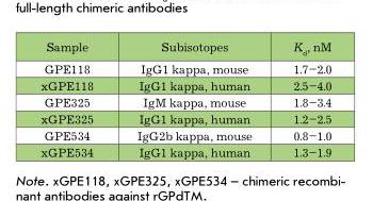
<table><thead><tr><td>Sample</td><td>Subisotopes</td><td>K<sub>d</sub>, nM</td></tr></thead><tbody><tr><td>GPE118</td><td>IgG1 kappa, mouse</td><td>1.7–2.0</td></tr><tr><td>xGPE118</td><td>IgG1 kappa, human</td><td>2.5–4.0</td></tr><tr><td>GPE325</td><td>IgM kappa, mouse</td><td>1.8–3.4</td></tr><tr><td>xGPE325</td><td>IgG1 kappa, human</td><td>1.2–2.5</td></tr><tr><td>GPE534</td><td>IgG2b kappa, mouse</td><td>0.8–1.0</td></tr><tr><td>xGPE534</td><td>IgG1 kappa, human</td><td>1.3–1.9</td></tr></tbody></table>